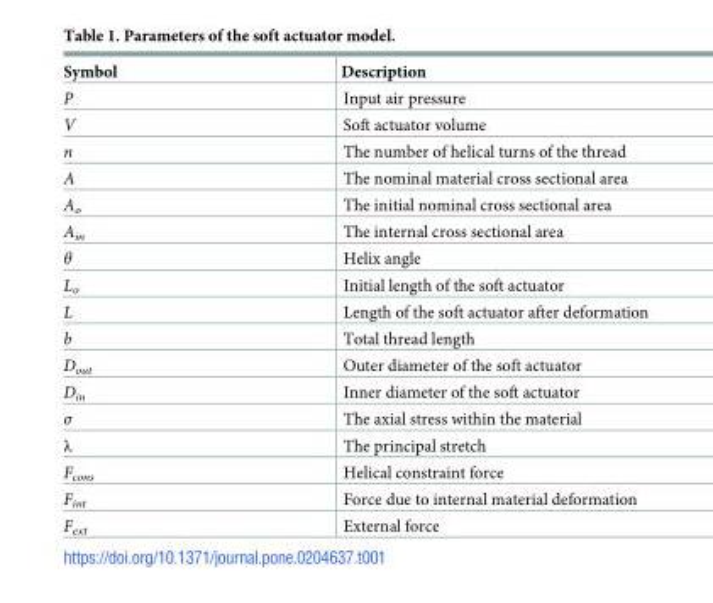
<table><thead><tr><td>Symbol</td><td>Description</td></tr></thead><tbody><tr><td>P</td><td>Input air pressure</td></tr><tr><td>V</td><td>Soft actuator volume</td></tr><tr><td>n</td><td>The number of helical turns of the thread</td></tr><tr><td>A</td><td>The nominal material cross sectional area</td></tr><tr><td>A<sub>o</sub></td><td>The initial nominal cross sectional area</td></tr><tr><td>A<sub>in</sub></td><td>The internal cross sectional area</td></tr><tr><td>θ</td><td>Helix angle</td></tr><tr><td>L<sub>o</sub></td><td>Initial length of the soft actuator</td></tr><tr><td>L</td><td>Length of the soft actuator after deformation</td></tr><tr><td>b</td><td>Total thread length</td></tr><tr><td>D<sub>out</sub></td><td>Outer diameter of the soft actuator</td></tr><tr><td>D<sub>in</sub></td><td>Inner diameter of the soft actuator</td></tr><tr><td>σ</td><td>The axial stress within the material</td></tr><tr><td>λ</td><td>The principal stretch</td></tr><tr><td>F<sub>cons</sub></td><td>Helical constraint force</td></tr><tr><td>F<sub>int</sub></td><td>Force due to internal material deformation</td></tr><tr><td>F<sub>ext</sub></td><td>External force</td></tr></tbody></table>